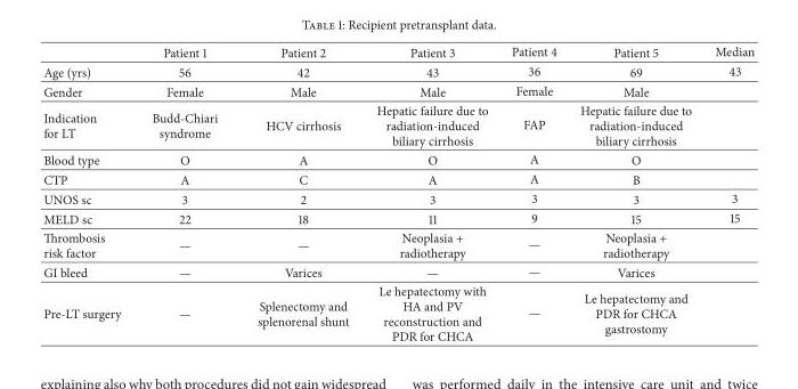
<table><thead><tr><td></td><td>Patient 1</td><td>Patient 2</td><td>Patient 3</td><td>Patient 4</td><td>Patient 5</td><td>Median</td></tr></thead><tbody><tr><td>Age (yrs)</td><td>56</td><td>42</td><td>43</td><td>36</td><td>69</td><td>43</td></tr><tr><td>Gender</td><td>Female</td><td>Male</td><td>Male</td><td>Female</td><td>Male</td><td></td></tr><tr><td>Indication for LT</td><td>Budd-Chiari syndrome</td><td>HCV cirrhosis</td><td>Hepatic failure due to radiation-induced biliary cirrhosis</td><td>FAP</td><td>Hepatic failure due to radiation-induced biliary cirrhosis</td><td></td></tr><tr><td>Blood type</td><td>O</td><td>A</td><td>O</td><td>A</td><td>O</td><td></td></tr><tr><td>CTP</td><td>A</td><td>C</td><td>A</td><td>A</td><td>B</td><td></td></tr><tr><td>UNOS sc</td><td>3</td><td>2</td><td>3</td><td>3</td><td>3</td><td>3</td></tr><tr><td>MELD sc</td><td>22</td><td>18</td><td>11</td><td>9</td><td>15</td><td>15</td></tr><tr><td>Thrombosis risk factor</td><td>—</td><td>—</td><td>Neoplasia + radiotherapy</td><td>—</td><td>Neoplasia + radiotherapy</td><td></td></tr><tr><td>GI bleed</td><td>—</td><td>Varices</td><td>—</td><td>—</td><td>Varices</td><td></td></tr><tr><td>Pre-LT surgery</td><td>—</td><td>Splenectomy and splenorenal shunt</td><td>Le hepatectomy with HA and PV reconstruction and PDR for CHCA</td><td>—</td><td>Le hepatectomy and PDR for CHCA gastrostomy</td><td></td></tr></tbody></table>